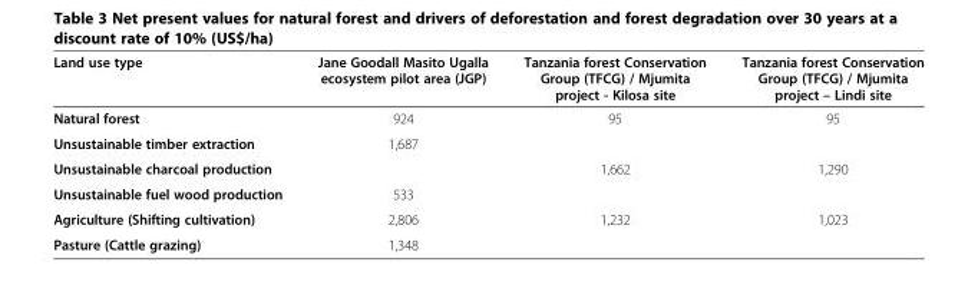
<table><thead><tr><td>Land use type</td><td>Jane Goodall Masito Ugalla ecosystem pilot area (JGP)</td><td>Tanzania forest Conservation Group (TFCG) / Mjumita project - Kilosa site</td><td>Tanzania forest Conservation Group (TFCG) / Mjumita project – Lindi site</td></tr></thead><tbody><tr><td>Natural forest</td><td>924</td><td>95</td><td>95</td></tr><tr><td>Unsustainable timber extraction</td><td>1,687</td><td></td><td></td></tr><tr><td>Unsustainable charcoal production</td><td></td><td>1,662</td><td>1,290</td></tr><tr><td>Unsustainable fuel wood production</td><td>533</td><td></td><td></td></tr><tr><td>Agriculture (Shifting cultivation)</td><td>2,806</td><td>1,232</td><td>1,023</td></tr><tr><td>Pasture (Cattle grazing)</td><td>1,348</td><td></td><td></td></tr></tbody></table>